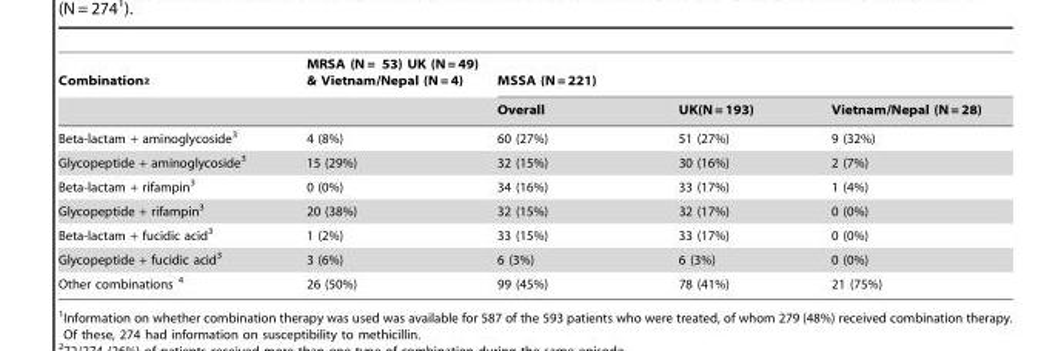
<table><thead><tr><td rowspan="2">Combination<sup>2</sup></td><td rowspan="2">MRSA (N = 53) UK (N = 49) &amp; Vietnam/Nepal (N = 4)</td><td colspan="3">MSSA (N = 221)</td></tr><tr><td>Overall</td><td>UK(N = 193)</td><td>Vietnam/Nepal (N = 28)</td></tr></thead><tbody><tr><td>Beta-lactam + aminoglycoside<sup>3</sup></td><td>4 (8%)</td><td>60 (27%)</td><td>51 (27%)</td><td>9 (32%)</td></tr><tr><td>Glycopeptide + aminoglycoside<sup>3</sup></td><td>15 (29%)</td><td>32 (15%)</td><td>30 (16%)</td><td>2 (7%)</td></tr><tr><td>Beta-lactam + rifampin<sup>3</sup></td><td>0 (0%)</td><td>34 (16%)</td><td>33 (17%)</td><td>1 (4%)</td></tr><tr><td>Glycopeptide + rifampin<sup>3</sup></td><td>20 (38%)</td><td>32 (15%)</td><td>32 (17%)</td><td>0 (0%)</td></tr><tr><td>Beta-lactam + fucidic acid<sup>3</sup></td><td>1 (2%)</td><td>33 (15%)</td><td>33 (17%)</td><td>0 (0%)</td></tr><tr><td>Glycopeptide + fucidic acid<sup>3</sup></td><td>3 (6%)</td><td>6 (3%)</td><td>6 (3%)</td><td>0 (0%)</td></tr><tr><td>Other combinations 4</td><td>26 (50%)</td><td>99 (45%)</td><td>78 (41%)</td><td>21 (75%)</td></tr></tbody></table>